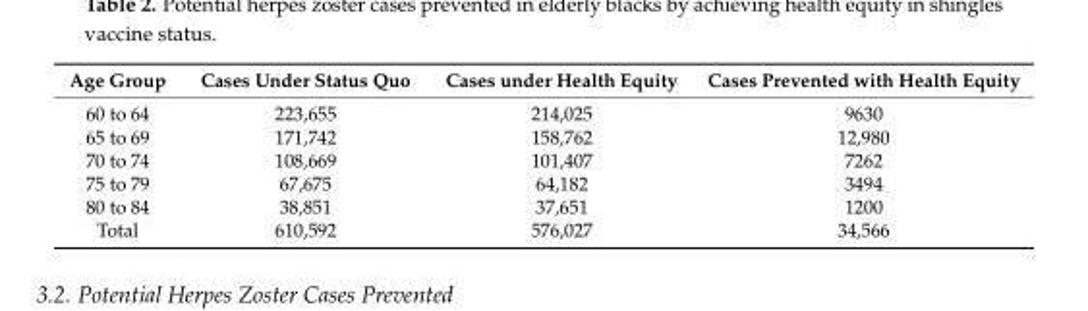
<table><thead><tr><td>Age Group</td><td>Cases Under Status Quo</td><td>Cases under Health Equity</td><td>Cases Prevented with Health Equity</td></tr></thead><tbody><tr><td>60 to 64</td><td>223,655</td><td>214,025</td><td>9630</td></tr><tr><td>65 to 69</td><td>171,742</td><td>158,762</td><td>12,980</td></tr><tr><td>70 to 74</td><td>108,669</td><td>101,407</td><td>7262</td></tr><tr><td>75 to 79</td><td>67,675</td><td>64,182</td><td>3494</td></tr><tr><td>80 to 84</td><td>38,851</td><td>37,651</td><td>1200</td></tr><tr><td>Total</td><td>610,592</td><td>576,027</td><td>34,566</td></tr></tbody></table>